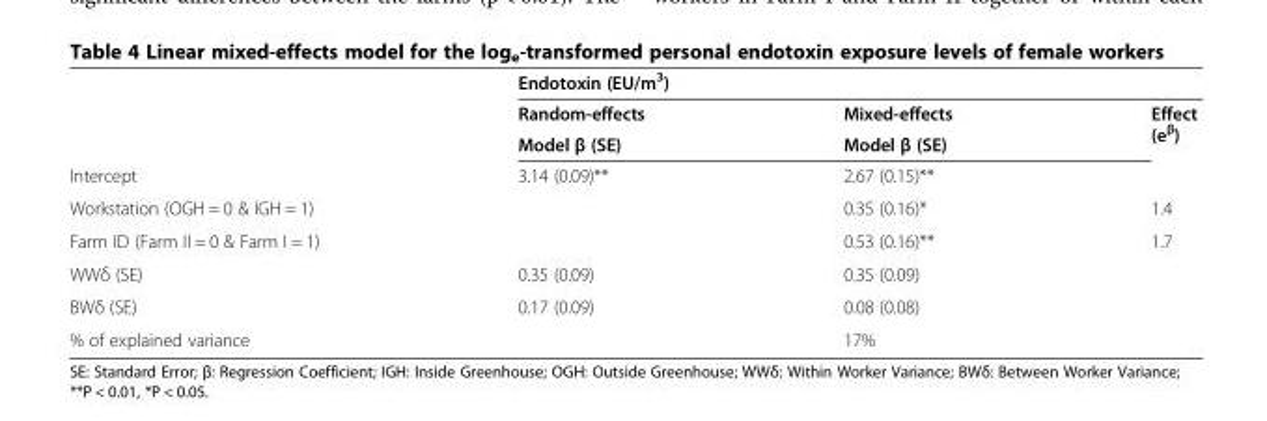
<table><thead><tr><td rowspan="3"></td><td colspan="3">Endotoxin (EU/m<sup>3</sup>)</td></tr><tr><td rowspan="2">Random-effects Model β (SE)</td><td rowspan="2">Mixed-effects Model β (SE)</td><td rowspan="2">Effect (e<sup>β</sup>)</td></tr><tr></tr></thead><tbody><tr><td>Intercept</td><td>3.14 (0.09)**</td><td>2.67 (0.15)**</td><td></td></tr><tr><td>Workstation (OGH = 0 &amp; IGH = 1)</td><td></td><td>0.35 (0.16)*</td><td>1.4</td></tr><tr><td>Farm ID (Farm II = 0 &amp; Farm I = 1)</td><td></td><td>0.53 (0.16)**</td><td>1.7</td></tr><tr><td>WWδ (SE)</td><td>0.35 (0.09)</td><td>0.35 (0.09)</td><td></td></tr><tr><td>BWδ (SE)</td><td>0.17 (0.09)</td><td>0.08 (0.08)</td><td></td></tr><tr><td>% of explained variance</td><td></td><td>17%</td><td></td></tr></tbody></table>